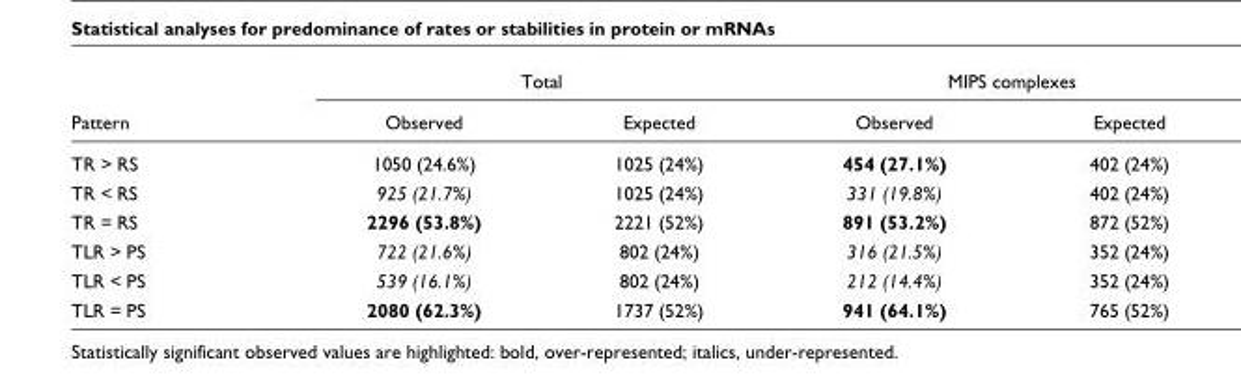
<table><thead><tr><td rowspan="2">Pattern</td><td colspan="2">Total</td><td colspan="2">MIPS complexes</td></tr><tr><td>Observed</td><td>Expected</td><td>Observed</td><td>Expected</td></tr></thead><tbody><tr><td>TR &gt; RS</td><td>1050 (24.6%)</td><td>1025 (24%)</td><td>454 (27.1%)</td><td>402 (24%)</td></tr><tr><td>TR &lt; RS</td><td>925 (21.7%)</td><td>1025 (24%)</td><td>331 (19.8%)</td><td>402 (24%)</td></tr><tr><td>TR = RS</td><td>2296 (53.8%)</td><td>2221 (52%)</td><td>891 (53.2%)</td><td>872 (52%)</td></tr><tr><td>TLR &gt; PS</td><td>722 (21.6%)</td><td>802 (24%)</td><td>316 (21.5%)</td><td>352 (24%)</td></tr><tr><td>TLR &lt; PS</td><td>539 (16.1%)</td><td>802 (24%)</td><td>212 (14.4%)</td><td>352 (24%)</td></tr><tr><td>TLR = PS</td><td>2080 (62.3%)</td><td>1737 (52%)</td><td>941 (64.1%)</td><td>765 (52%)</td></tr></tbody></table>